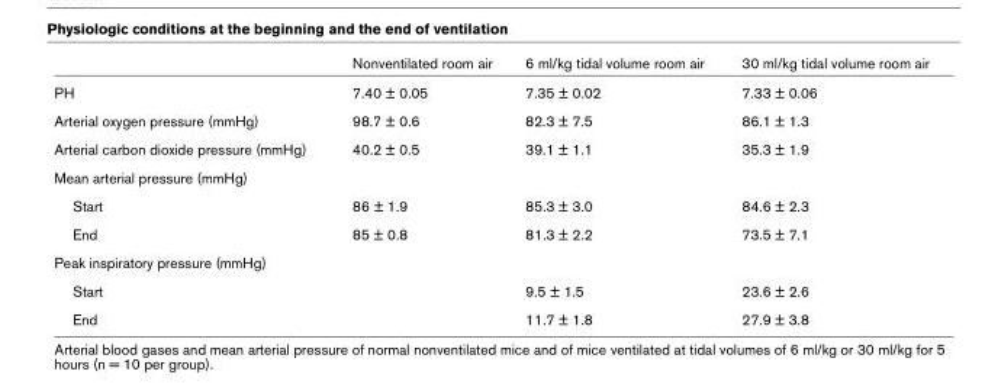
<table><thead><tr><td></td><td>Nonventilated room air</td><td>6 ml/kg tidal volume room air</td><td>30 ml/kg tidal volume room air</td></tr></thead><tbody><tr><td>PH</td><td>7.40 ± 0.05</td><td>7.35 ± 0.02</td><td>7.33 ± 0.06</td></tr><tr><td>Arterial oxygen pressure (mmHg)</td><td>98.7 ± 0.6</td><td>82.3 ± 7.5</td><td>86.1 ± 1.3</td></tr><tr><td>Arterial carbon dioxide pressure (mmHg)</td><td>40.2 ± 0.5</td><td>39.1 ± 1.1</td><td>35.3 ± 1.9</td></tr><tr><td colspan="4">Mean arterial pressure (mmHg)</td></tr><tr><td>Start</td><td>86 ± 1.9</td><td>85.3 ± 3.0</td><td>84.6 ± 2.3</td></tr><tr><td>End</td><td>85 ± 0.8</td><td>81.3 ± 2.2</td><td>73.5 ± 7.1</td></tr><tr><td colspan="4">Peak inspiratory pressure (mmHg)</td></tr><tr><td>Start</td><td></td><td>9.5 ± 1.5</td><td>23.6 ± 2.6</td></tr><tr><td>End</td><td></td><td>11.7 ± 1.8</td><td>27.9 ± 3.8</td></tr></tbody></table>